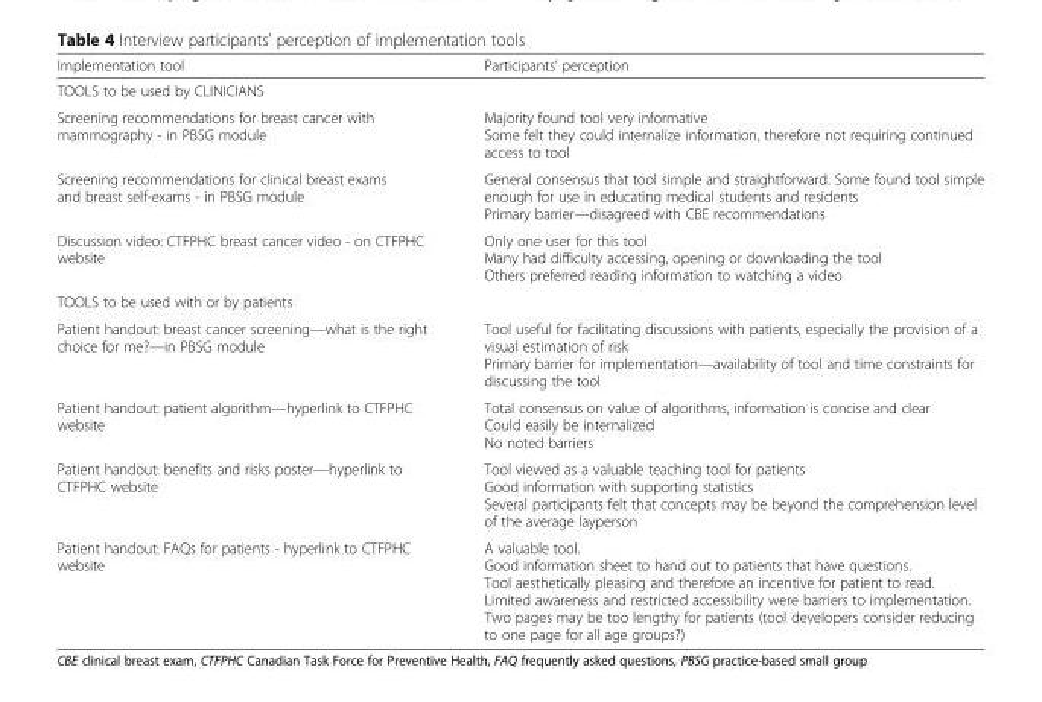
<table><thead><tr><td>Implementation tool</td><td>Participants’ perception</td></tr></thead><tbody><tr><td colspan="2">TOOLS to be used by CLINICIANS</td></tr><tr><td>Screening recommendations for breast cancer with mammography - in PBSG module</td><td>Majority found tool very informative Some felt they could internalize information, therefore not requiring continued access to tool</td></tr><tr><td>Screening recommendations for clinical breast exams and breast self-exams - in PBSG module</td><td>General consensus that tool simple and straightforward. Some found tool simple enough for use in educating medical students and residents Primary barrier—disagreed with CBE recommendations</td></tr><tr><td>Discussion video: CTFPHC breast cancer video - on CTFPHC website</td><td>Only one user for this tool Many had difficulty accessing, opening or downloading the tool Others preferred reading information to watching a video</td></tr><tr><td colspan="2">TOOLS to be used with or by patients</td></tr><tr><td>Patient handout: breast cancer screening—what is the right choice for me?—in PBSG module</td><td>Tool useful for facilitating discussions with patients, especially the provision of a visual estimation of risk Primary barrier for implementation—availability of tool and time constraints for discussing the tool</td></tr><tr><td>Patient handout: patient algorithm—hyperlink to CTFPHC website</td><td>Total consensus on value of algorithms, information is concise and clear Could easily be internalized No noted barriers</td></tr><tr><td>Patient handout: benefits and risks poster—hyperlink to CTFPHC website</td><td>Tool viewed as a valuable teaching tool for patients Good information with supporting statistics Several participants felt that concepts may be beyond the comprehension level of the average layperson</td></tr><tr><td>Patient handout: FAQs for patients - hyperlink to CTFPHC website</td><td>A valuable tool. Good information sheet to hand out to patients that have questions. Tool aesthetically pleasing and therefore an incentive for patient to read. Limited awareness and restricted accessibility were barriers to implementation. Two pages may be too lengthy for patients (tool developers consider reducing to one page for all age groups?)</td></tr></tbody></table>